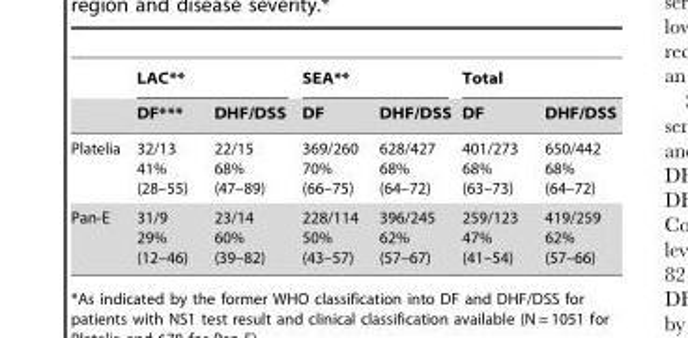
<table><thead><tr><td rowspan="2"></td><td colspan="2">LAC**</td><td colspan="2">SEA**</td><td colspan="2">Total</td></tr><tr><td>DF***</td><td>DHF/DSS</td><td>DF</td><td>DHF/DSS</td><td>DF</td><td>DHF/DSS</td></tr></thead><tbody><tr><td>Platelia</td><td>32/13 41% (28–55)</td><td>22/15 68% (47–89)</td><td>369/260 70% (66–75)</td><td>628/427 68% (64–72)</td><td>401/273 68% (63–73)</td><td>650/442 68% (64–72)</td></tr><tr><td>Pan-E</td><td>31/9 29% (12–46)</td><td>23/14 60% (39–82)</td><td>228/114 50% (43–57)</td><td>396/245 62% (57–67)</td><td>259/123 47% (41–54)</td><td>419/259 62% (57–66)</td></tr></tbody></table>